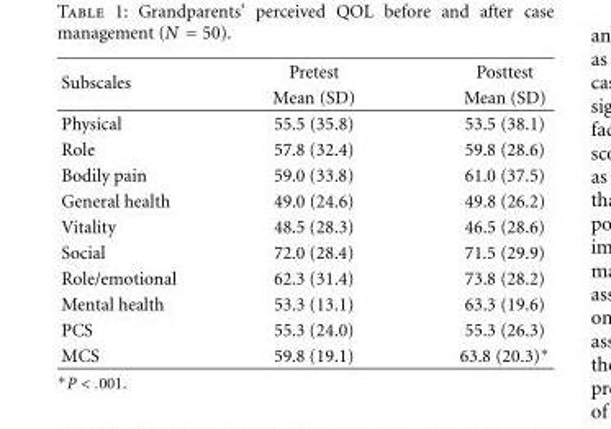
<table><thead><tr><td rowspan="2">Subscales</td><td rowspan="2">Pretest Mean (SD)</td><td rowspan="2">Posttest Mean (SD)</td></tr><tr></tr></thead><tbody><tr><td>Physical</td><td>55.5 (35.8)</td><td>53.5 (38.1)</td></tr><tr><td>Role</td><td>57.8 (32.4)</td><td>59.8 (28.6)</td></tr><tr><td>Bodily pain</td><td>59.0 (33.8)</td><td>61.0 (37.5)</td></tr><tr><td>General health</td><td>49.0 (24.6)</td><td>49.8 (26.2)</td></tr><tr><td>Vitality</td><td>48.5 (28.3)</td><td>46.5 (28.6)</td></tr><tr><td>Social</td><td>72.0 (28.4)</td><td>71.5 (29.9)</td></tr><tr><td>Role/emotional</td><td>62.3 (31.4)</td><td>73.8 (28.2)</td></tr><tr><td>Mental health</td><td>53.3 (13.1)</td><td>63.3 (19.6)</td></tr><tr><td>PCS</td><td>55.3 (24.0)</td><td>55.3 (26.3)</td></tr><tr><td>MCS</td><td>59.8 (19.1)</td><td>63.8 (20.3)∗</td></tr></tbody></table>